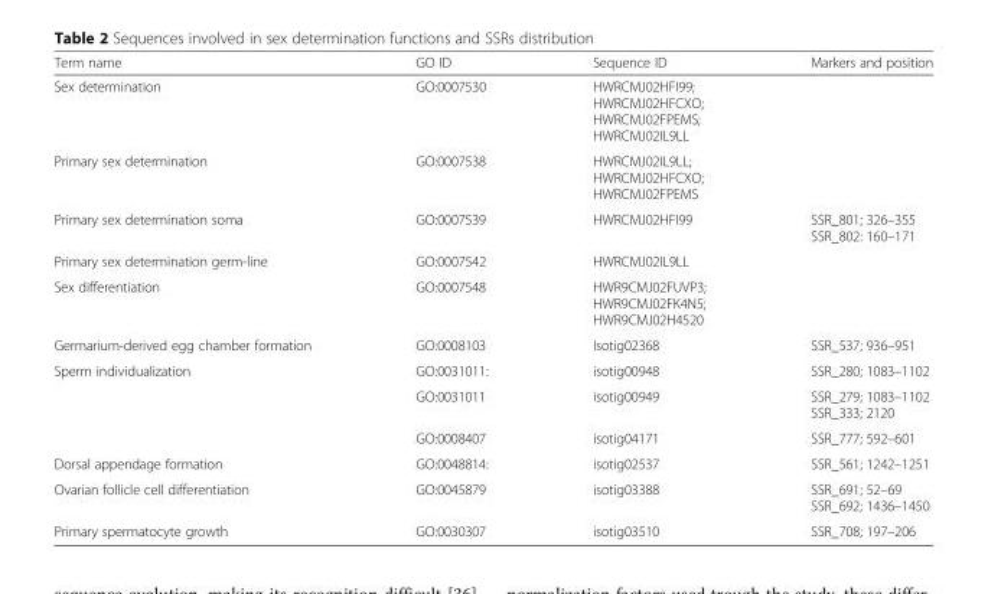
<table><thead><tr><td>Term name</td><td>GO ID</td><td>Sequence ID</td><td>Markers and position</td></tr></thead><tbody><tr><td>Sex determination</td><td>GO:0007530</td><td>HWRCMJ02HFI99; HWRCMJ02HFCXO; HWRCMJ02FPEMS; HWRCMJ02IL9LL</td><td></td></tr><tr><td>Primary sex determination</td><td>GO:0007538</td><td>HWRCMJ02IL9LL; HWRCMJ02HFCXO; HWRCMJ02FPEMS</td><td></td></tr><tr><td>Primary sex determination soma</td><td>GO:0007539</td><td>HWRCMJ02HFI99</td><td>SSR_801; 326–355 SSR_802: 160–171</td></tr><tr><td>Primary sex determination germ-line</td><td>GO:0007542</td><td>HWRCMJ02IL9LL</td><td></td></tr><tr><td>Sex differentiation</td><td>GO:0007548</td><td>HWR9CMJ02FUVP3; HWR9CMJ02FK4N5; HWR9CMJ02H4520</td><td></td></tr><tr><td>Germarium-derived egg chamber formation</td><td>GO:0008103</td><td>Isotig02368</td><td>SSR_537; 936–951</td></tr><tr><td rowspan="3">Sperm individualization</td><td>GO:0031011:</td><td>isotig00948</td><td>SSR_280; 1083–1102</td></tr><tr><td>GO:0031011</td><td>isotig00949</td><td>SSR_279; 1083–1102 SSR_333; 2120</td></tr><tr><td>GO:0008407</td><td>isotig04171</td><td>SSR_777; 592–601</td></tr><tr><td>Dorsal appendage formation</td><td>GO:0048814:</td><td>isotig02537</td><td>SSR_561; 1242–1251</td></tr><tr><td>Ovarian follicle cell differentiation</td><td>GO:0045879</td><td>isotig03388</td><td>SSR_691; 52–69 SSR_692; 1436–1450</td></tr><tr><td>Primary spermatocyte growth</td><td>GO:0030307</td><td>isotig03510</td><td>SSR_708; 197–206</td></tr></tbody></table>